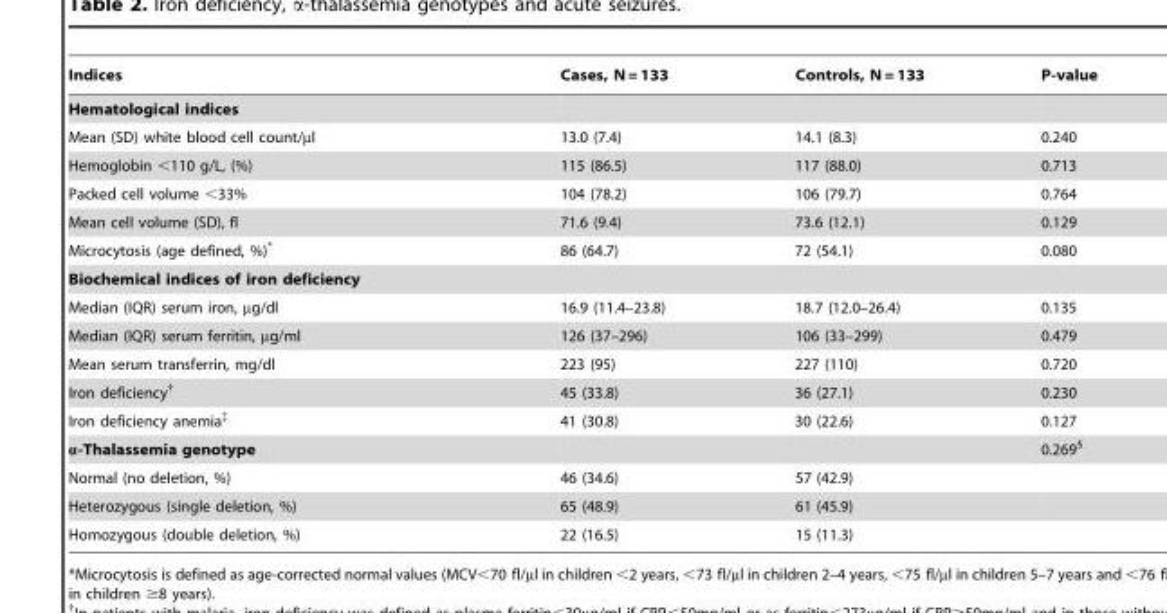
<table><thead><tr><td>Indices</td><td>Cases, N = 133</td><td>Controls, N = 133</td><td>P-value</td></tr></thead><tbody><tr><td colspan="4">Hematological indices</td></tr><tr><td>Mean (SD) white blood cell count/µl</td><td>13.0 (7.4)</td><td>14.1 (8.3)</td><td>0.240</td></tr><tr><td>Hemoglobin &lt;110 g/L, (%)</td><td>115 (86.5)</td><td>117 (88.0)</td><td>0.713</td></tr><tr><td>Packed cell volume &lt;33%</td><td>104 (78.2)</td><td>106 (79.7)</td><td>0.764</td></tr><tr><td>Mean cell volume (SD), fl</td><td>71.6 (9.4)</td><td>73.6 (12.1)</td><td>0.129</td></tr><tr><td>Microcytosis (age defined, %)*</td><td>86 (64.7)</td><td>72 (54.1)</td><td>0.080</td></tr><tr><td colspan="4">Biochemical indices of iron deficiency</td></tr><tr><td>Median (IQR) serum iron, µg/dl</td><td>16.9 (11.4–23.8)</td><td>18.7 (12.0–26.4)</td><td>0.135</td></tr><tr><td>Median (IQR) serum ferritin, µg/ml</td><td>126 (37–296)</td><td>106 (33–299)</td><td>0.479</td></tr><tr><td>Mean serum transferrin, mg/dl</td><td>223 (95)</td><td>227 (110)</td><td>0.720</td></tr><tr><td>Iron deficiency†</td><td>45 (33.8)</td><td>36 (27.1)</td><td>0.230</td></tr><tr><td>Iron deficiency anemia‡</td><td>41 (30.8)</td><td>30 (22.6)</td><td>0.127</td></tr><tr><td>α-Thalassemia genotype</td><td></td><td></td><td>0.269§</td></tr><tr><td>Normal (no deletion, %)</td><td>46 (34.6)</td><td>57 (42.9)</td><td></td></tr><tr><td>Heterozygous (single deletion, %)</td><td>65 (48.9)</td><td>61 (45.9)</td><td></td></tr><tr><td>Homozygous (double deletion, %)</td><td>22 (16.5)</td><td>15 (11.3)</td><td></td></tr></tbody></table>